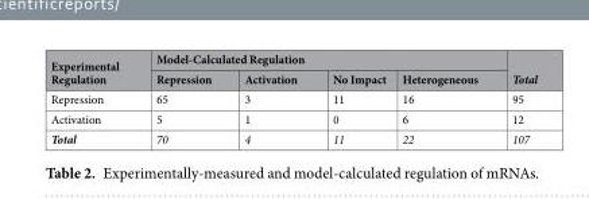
<table><thead><tr><td rowspan="2">Experimental Regulation</td><td colspan="4">Model-Calculated Regulation</td><td rowspan="2">Total</td></tr><tr><td>Repression</td><td>Activation</td><td>No Impact</td><td>Heterogeneous</td></tr></thead><tbody><tr><td>Repression</td><td>65</td><td>3</td><td>11</td><td>16</td><td>95</td></tr><tr><td>Activation</td><td>5</td><td>1</td><td>0</td><td>6</td><td>12</td></tr><tr><td>Total</td><td>70</td><td>4</td><td>11</td><td>22</td><td>107</td></tr></tbody></table>